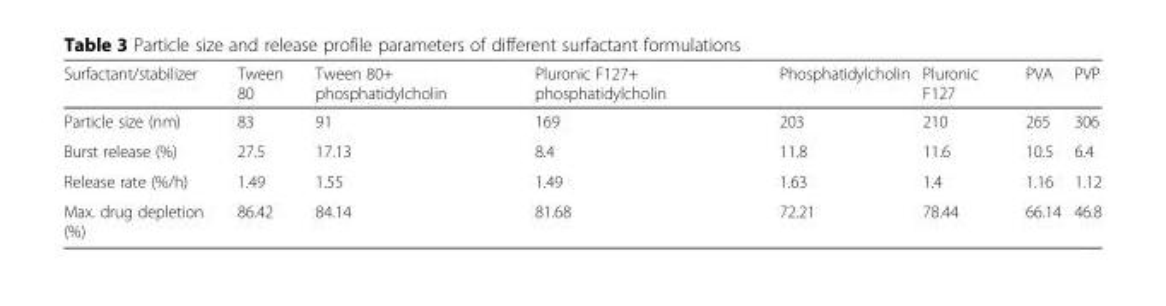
<table><thead><tr><td>Surfactant/stabilizer</td><td>Tween 80</td><td>Tween 80+ phosphatidylcholin</td><td>Pluronic F127+ phosphatidylcholin</td><td>Phosphatidylcholin</td><td>Pluronic F127</td><td>PVA</td><td>PVP</td></tr></thead><tbody><tr><td>Particle size (nm)</td><td>83</td><td>91</td><td>169</td><td>203</td><td>210</td><td>265</td><td>306</td></tr><tr><td>Burst release (%)</td><td>27.5</td><td>17.13</td><td>8.4</td><td>11.8</td><td>11.6</td><td>10.5</td><td>6.4</td></tr><tr><td>Release rate (%/h)</td><td>1.49</td><td>1.55</td><td>1.49</td><td>1.63</td><td>1.4</td><td>1.16</td><td>1.12</td></tr><tr><td>Max. drug depletion (%)</td><td>86.42</td><td>84.14</td><td>81.68</td><td>72.21</td><td>78.44</td><td>66.14</td><td>46.8</td></tr></tbody></table>